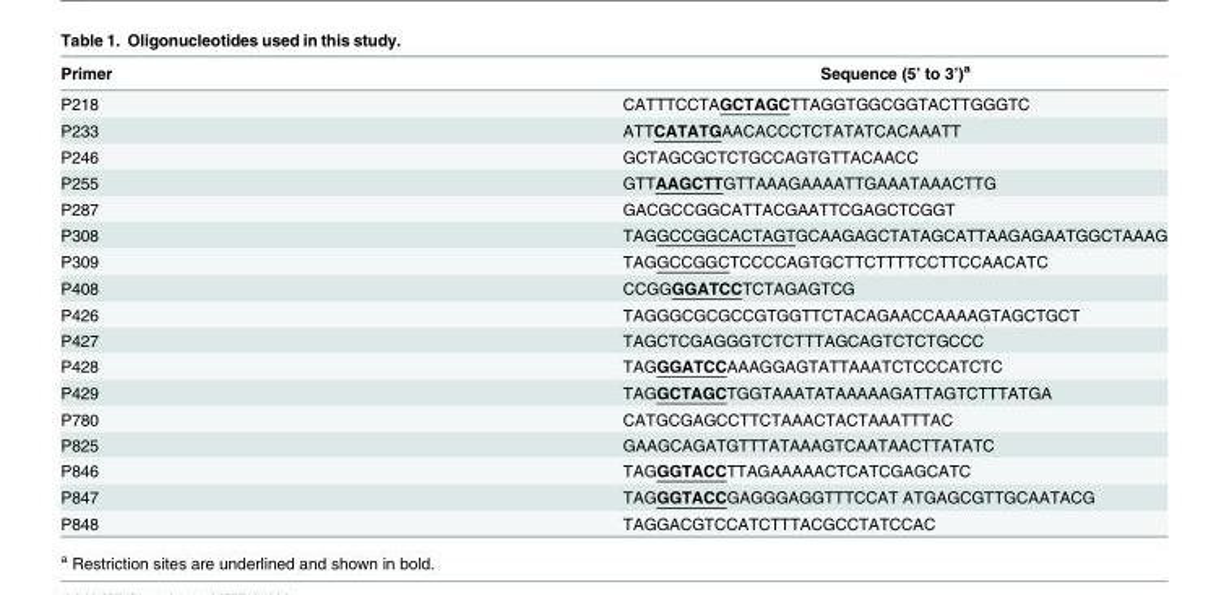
<table><thead><tr><td>Primer</td><td>Sequence (5’ to 3’)<sup>a</sup></td></tr></thead><tbody><tr><td>P218</td><td>CATTTCCTAGCTAGCTTAGGTGGCGGTACTTGGGTC</td></tr><tr><td>P233</td><td>ATTCATATGAACACCCTCTATATCACAAATT</td></tr><tr><td>P246</td><td>GCTAGCGCTCTGCCAGTGTTACAACC</td></tr><tr><td>P255</td><td>GTTAAGCTTGTTAAAGAAAATTGAAATAAACTTG</td></tr><tr><td>P287</td><td>GACGCCGGCATTACGAATTCGAGCTCGGT</td></tr><tr><td>P308</td><td>TAGGCCGGCACTAGTGCAAGAGCTATAGCATTAAGAGAATGGCTAAAG</td></tr><tr><td>P309</td><td>TAGGCCGGCTCCCCAGTGCTTCTTTTCCTTCCAACATC</td></tr><tr><td>P408</td><td>CCGGGGATCCTCTAGAGTCG</td></tr><tr><td>P426</td><td>TAGGGCGCGCCGTGGTTCTACAGAACCAAAAGTAGCTGCT</td></tr><tr><td>P427</td><td>TAGCTCGAGGGTCTCTTTAGCAGTCTCTGCCC</td></tr><tr><td>P428</td><td>TAGGGATCCAAAGGAGTATTAAATCTCCCATCTC</td></tr><tr><td>P429</td><td>TAGGCTAGCTGGTAAATATAAAAAGATTAGTCTTTATGA</td></tr><tr><td>P780</td><td>CATGCGAGCCTTCTAAACTACTAAATTTAC</td></tr><tr><td>P825</td><td>GAAGCAGATGTTTATAAAGTCAATAACTTATATC</td></tr><tr><td>P846</td><td>TAGGGTACCTTAGAAAAACTCATCGAGCATC</td></tr><tr><td>P847</td><td>TAGGGTACCGAGGGAGGTTTCCAT ATGAGCGTTGCAATACG</td></tr><tr><td>P848</td><td>TAGGACGTCCATCTTTACGCCTATCCAC</td></tr></tbody></table>